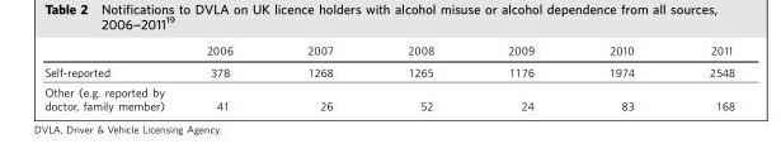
<table><thead><tr><td></td><td>2006</td><td>2007</td><td>2008</td><td>2009</td><td>2010</td><td>2011</td></tr></thead><tbody><tr><td>Self-reported</td><td>378</td><td>1268</td><td>1265</td><td>1176</td><td>1974</td><td>2548</td></tr><tr><td>Other (e.g. reported by doctor, family member)</td><td>41</td><td>26</td><td>52</td><td>24</td><td>83</td><td>168</td></tr></tbody></table>